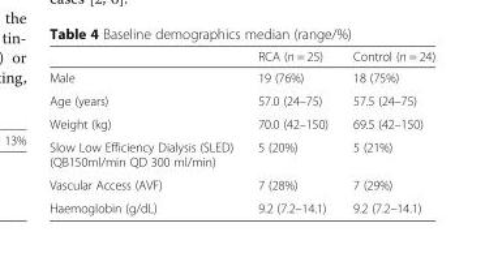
<table><thead><tr><td></td><td>RCA (n = 25)</td><td>Control (n = 24)</td></tr></thead><tbody><tr><td>Male</td><td>19 (76%)</td><td>18 (75%)</td></tr><tr><td>Age (years)</td><td>57.0 (24–75)</td><td>57.5 (24–75)</td></tr><tr><td>Weight (kg)</td><td>70.0 (42–150)</td><td>69.5 (42–150)</td></tr><tr><td>Slow Low Efficiency Dialysis (SLED) (QB150ml/min QD 300 ml/min)</td><td>5 (20%)</td><td>5 (21%)</td></tr><tr><td>Vascular Access (AVF)</td><td>7 (28%)</td><td>7 (29%)</td></tr><tr><td>Haemoglobin (g/dL)</td><td>9.2 (7.2–14.1)</td><td>9.2 (7.2–14.1)</td></tr></tbody></table>